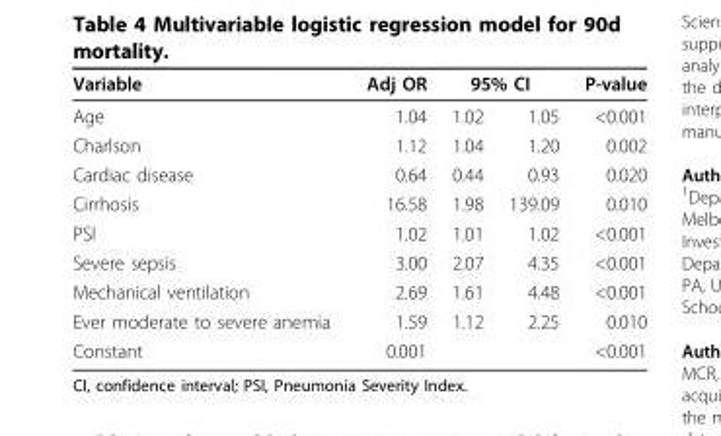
<table><thead><tr><td rowspan="2">Variable Age</td><td rowspan="2">Adj OR 1.04</td><td colspan="2">95% CI</td><td rowspan="2">P-value &lt;0.001</td></tr><tr><td>1.02</td><td>1.05</td></tr></thead><tbody><tr><td>Charlson</td><td>1.12</td><td>1.04</td><td>1.20</td><td>0.002</td></tr><tr><td>Cardiac disease</td><td>0.64</td><td>0.44</td><td>0.93</td><td>0.020</td></tr><tr><td>Cirrhosis</td><td>16.58</td><td>1.98</td><td>139.09</td><td>0.010</td></tr><tr><td>PSI</td><td>1.02</td><td>1.01</td><td>1.02</td><td>&lt;0.001</td></tr><tr><td>Severe sepsis</td><td>3.00</td><td>2.07</td><td>4.35</td><td>&lt;0.001</td></tr><tr><td>Mechanical ventilation</td><td>2.69</td><td>1.61</td><td>4.48</td><td>&lt;0.001</td></tr><tr><td>Ever moderate to severe anemia</td><td>1.59</td><td>1.12</td><td>2.25</td><td>0.010</td></tr><tr><td>Constant</td><td>0.001</td><td></td><td></td><td>&lt;0.001</td></tr></tbody></table>